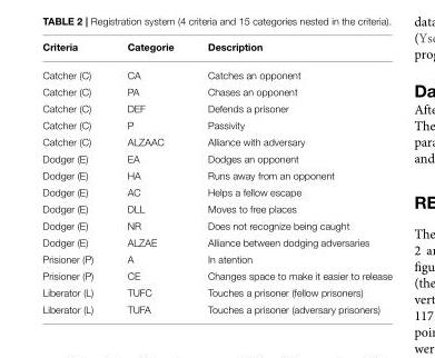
<table><thead><tr><td>Criteria</td><td>Categorie</td><td>Description</td></tr></thead><tbody><tr><td>Catcher (C)</td><td>CA</td><td>Catches an opponent</td></tr><tr><td>Catcher (C)</td><td>PA</td><td>Chases an opponent</td></tr><tr><td>Catcher (C)</td><td>DEF</td><td>Defends a prisoner</td></tr><tr><td>Catcher (C)</td><td>P</td><td>Passivity</td></tr><tr><td>Catcher (C)</td><td>ALZAAC</td><td>Alliance with adversary</td></tr><tr><td>Dodger (E)</td><td>EA</td><td>Dodges an opponent</td></tr><tr><td>Dodger (E)</td><td>HA</td><td>Runs away from an opponent</td></tr><tr><td>Dodger (E)</td><td>AC</td><td>Helps a fellow escape</td></tr><tr><td>Dodger (E)</td><td>DLL</td><td>Moves to free places</td></tr><tr><td>Dodger (E)</td><td>NR</td><td>Does not recognize being caught</td></tr><tr><td>Dodger (E)</td><td>ALZAE</td><td>Alliance between dodging adversaries</td></tr><tr><td>Prisioner (P)</td><td>A</td><td>In atention</td></tr><tr><td>Prisioner (P)</td><td>CE</td><td>Changes space to make it easier to release</td></tr><tr><td>Liberator (L)</td><td>TUFC</td><td>Touches a prisoner (fellow prisoners)</td></tr><tr><td>Liberator (L)</td><td>TUFA</td><td>Touches a prisoner (adversary prisoners)</td></tr></tbody></table>